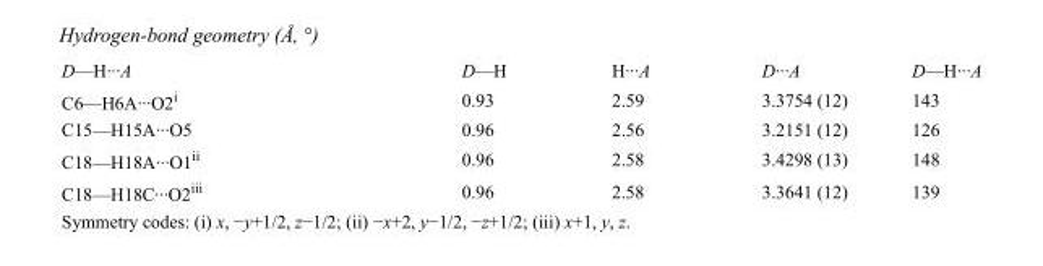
<table><tbody><tr><td>D—H···A</td><td>D—H</td><td>H···A</td><td>D···A</td><td>D—H···A</td></tr><tr><td>C6—H6A···O2<sup>i</sup></td><td>0.93</td><td>2.59</td><td>3.3754 (12)</td><td>143</td></tr><tr><td>C15—H15A···O5</td><td>0.96</td><td>2.56</td><td>3.2151 (12)</td><td>126</td></tr><tr><td>C18—H18A···O1<sup>ii</sup></td><td>0.96</td><td>2.58</td><td>3.4298 (13)</td><td>148</td></tr><tr><td>C18—H18C···O2<sup>iii</sup></td><td>0.96</td><td>2.58</td><td>3.3641 (12)</td><td>139</td></tr></tbody></table>